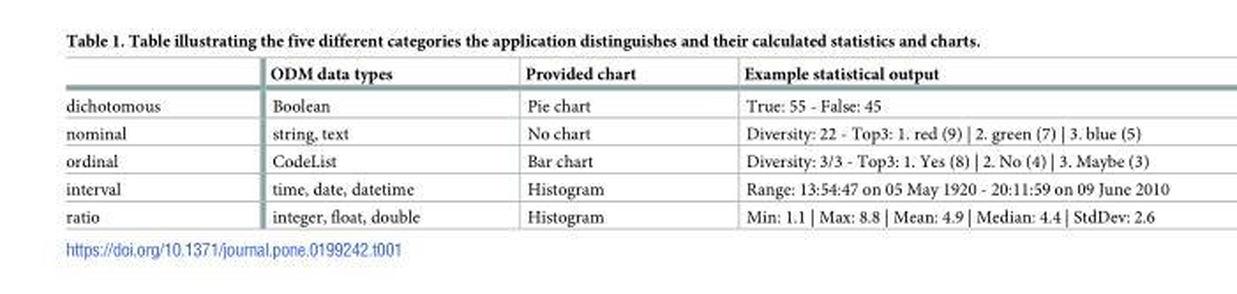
<table><thead><tr><td></td><td>ODM data types</td><td>Provided chart</td><td>Example statistical output</td></tr></thead><tbody><tr><td>dichotomous</td><td>Boolean</td><td>Pie chart</td><td>True: 55 - False: 45</td></tr><tr><td>nominal</td><td>string, text</td><td>No chart</td><td>Diversity: 22 - Top3: 1. red (9) | 2. green (7) | 3. blue (5)</td></tr><tr><td>ordinal</td><td>CodeList</td><td>Bar chart</td><td>Diversity: 3/3 - Top3: 1. Yes (8) | 2. No (4) | 3. Maybe (3)</td></tr><tr><td>interval</td><td>time, date, datetime</td><td>Histogram</td><td>Range: 13:54:47 on 05 May 1920 - 20:11:59 on 09 June 2010</td></tr><tr><td>ratio</td><td>integer, float, double</td><td>Histogram</td><td>Min: 1.1 | Max: 8.8 | Mean: 4.9 | Median: 4.4 | StdDev: 2.6</td></tr></tbody></table>